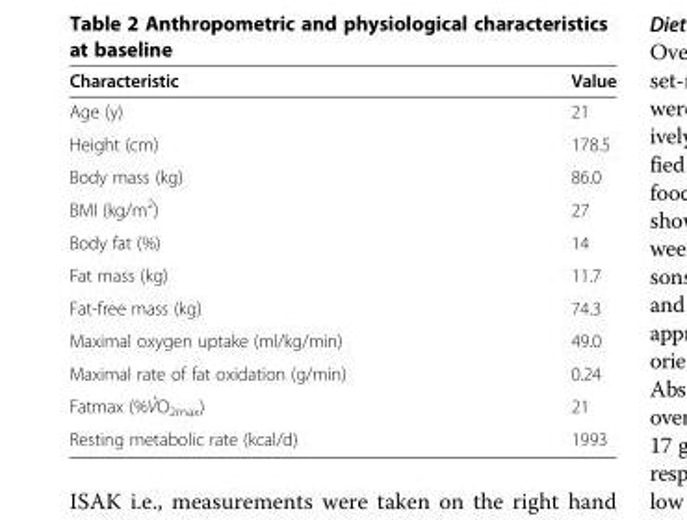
<table><thead><tr><td>Characteristic</td><td>Value</td></tr></thead><tbody><tr><td>Age (y)</td><td>21</td></tr><tr><td>Height (cm)</td><td>178.5</td></tr><tr><td>Body mass (kg)</td><td>86.0</td></tr><tr><td>BMI (kg/m<sup>2</sup>)</td><td>27</td></tr><tr><td>Body fat (%)</td><td>14</td></tr><tr><td>Fat mass (kg)</td><td>11.7</td></tr><tr><td>Fat-free mass (kg)</td><td>74.3</td></tr><tr><td>Maximal oxygen uptake (ml/kg/min)</td><td>49.0</td></tr><tr><td>Maximal rate of fat oxidation (g/min)</td><td>0.24</td></tr><tr><td>Fatmax (%V̇O<sub>2max</sub>)</td><td>21</td></tr><tr><td>Resting metabolic rate (kcal/d)</td><td>1993</td></tr></tbody></table>